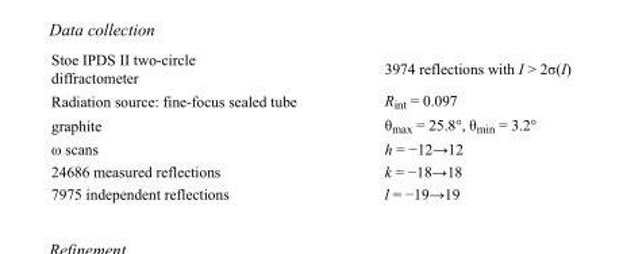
<table><tbody><tr><td>Stoe IPDS II two-circle diffractometer</td><td>3974 reflections with I &gt; 2σ(I)</td></tr><tr><td>Radiation source: fine-focus sealed tube</td><td>R<sub>int</sub> = 0.097</td></tr><tr><td>graphite</td><td>θ<sub>max</sub> = 25.8°, θ<sub>min</sub> = 3.2°</td></tr><tr><td>ω scans</td><td>h = −12→12</td></tr><tr><td>24686 measured reflections</td><td>k = −18→18</td></tr><tr><td>7975 independent reflections</td><td>l = −19→19</td></tr></tbody></table>